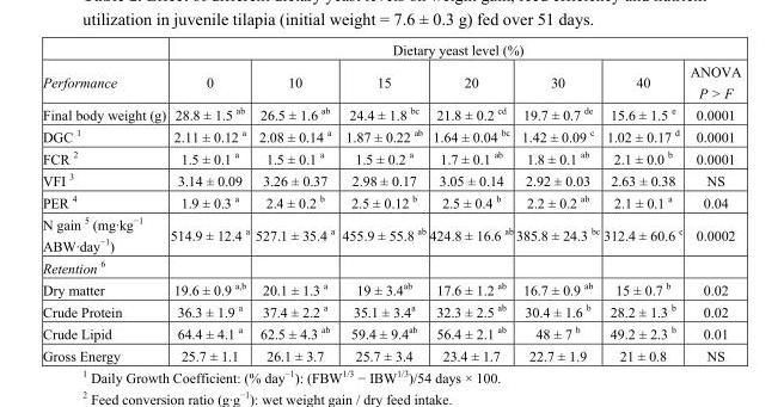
<table><thead><tr><td rowspan="2">Performance</td><td colspan="7">Dietary yeast level (%)</td></tr><tr><td>0</td><td>10</td><td>15</td><td>20</td><td>30</td><td>40</td><td>ANOVA P &gt; F</td></tr></thead><tbody><tr><td>Final body weight (g)</td><td>28.8 ± 1.5 <sup>ab</sup></td><td>26.5 ± 1.6 <sup>ab</sup></td><td>24.4 ± 1.8 <sup>bc</sup></td><td>21.8 ± 0.2 <sup>cd</sup></td><td>19.7 ± 0.7 <sup>de</sup></td><td>15.6 ± 1.5 <sup>e</sup></td><td>0.0001</td></tr><tr><td>DGC <sup>1</sup></td><td>2.11 ± 0.12 <sup>a</sup></td><td>2.08 ± 0.14 <sup>a</sup></td><td>1.87 ± 0.22 <sup>ab</sup></td><td>1.64 ± 0.04 <sup>bc</sup></td><td>1.42 ± 0.09 <sup>c</sup></td><td>1.02 ± 0.17 <sup>d</sup></td><td>0.0001</td></tr><tr><td>FCR <sup>2</sup></td><td>1.5 ± 0.1 <sup>a</sup></td><td>1.5 ± 0.1 <sup>a</sup></td><td>1.5 ± 0.2 <sup>a</sup></td><td>1.7 ± 0.1 <sup>ab</sup></td><td>1.8 ± 0.1 <sup>ab</sup></td><td>2.1 ± 0.0 <sup>b</sup></td><td>0.0001</td></tr><tr><td>VFI <sup>3</sup></td><td>3.14 ± 0.09</td><td>3.26 ± 0.37</td><td>2.98 ± 0.17</td><td>3.05 ± 0.14</td><td>2.92 ± 0.03</td><td>2.63 ± 0.38</td><td>NS</td></tr><tr><td>PER <sup>4</sup></td><td>1.9 ± 0.3 <sup>a</sup></td><td>2.4 ± 0.2 <sup>b</sup></td><td>2.5 ± 0.12 <sup>b</sup></td><td>2.5 ± 0.4 <sup>b</sup></td><td>2.2 ± 0.2 <sup>ab</sup></td><td>2.1 ± 0.1 <sup>a</sup></td><td>0.04</td></tr><tr><td>N gain <sup>5</sup> (mg·kg<sup>−1</sup> ABW·day<sup>−1</sup>)</td><td>514.9 ± 12.4 <sup>a</sup></td><td>527.1 ± 35.4 <sup>a</sup></td><td>455.9 ± 55.8 <sup>ab</sup></td><td>424.8 ± 16.6 <sup>ab</sup></td><td>385.8 ± 24.3 <sup>bc</sup></td><td>312.4 ± 60.6 <sup>c</sup></td><td>0.0002</td></tr><tr><td colspan="8">Retention <sup>6</sup></td></tr><tr><td>Dry matter</td><td>19.6 ± 0.9 <sup>a,b</sup></td><td>20.1 ± 1.3 <sup>a</sup></td><td>19 ± 3.4<sup>ab</sup></td><td>17.6 ± 1.2 <sup>ab</sup></td><td>16.7 ± 0.9 <sup>ab</sup></td><td>15 ± 0.7 <sup>b</sup></td><td>0.02</td></tr><tr><td>Crude Protein</td><td>36.3 ± 1.9 <sup>a</sup></td><td>37.4 ± 2.2 <sup>a</sup></td><td>35.1 ± 3.4<sup>a</sup></td><td>32.3 ± 2.5 <sup>ab</sup></td><td>30.4 ± 1.6 <sup>b</sup></td><td>28.2 ± 1.3 <sup>b</sup></td><td>0.02</td></tr><tr><td>Crude Lipid</td><td>64.4 ± 4.1 <sup>a</sup></td><td>62.5 ± 4.3 <sup>ab</sup></td><td>59.4 ± 9.4<sup>ab</sup></td><td>56.4 ± 2.1 <sup>ab</sup></td><td>48 ± 7 <sup>b</sup></td><td>49.2 ± 2.3 <sup>b</sup></td><td>0.01</td></tr><tr><td>Gross Energy</td><td>25.7 ± 1.1</td><td>26.1 ± 3.7</td><td>25.7 ± 3.4</td><td>23.4 ± 1.7</td><td>22.7 ± 1.9</td><td>21 ± 0.8</td><td>NS</td></tr></tbody></table>